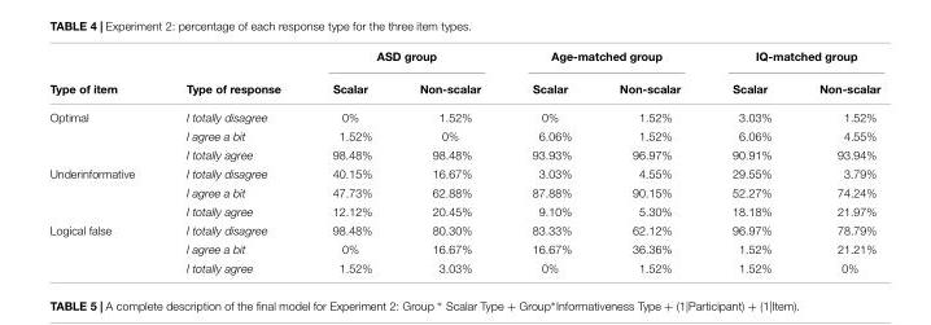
<table><thead><tr><td rowspan="2">Type of item</td><td rowspan="2">Type of response</td><td colspan="2">ASD group</td><td colspan="2">Age-matched group</td><td colspan="2">IQ-matched group</td></tr><tr><td>Scalar</td><td>Non-scalar</td><td>Scalar</td><td>Non-scalar</td><td>Scalar</td><td>Non-scalar</td></tr></thead><tbody><tr><td rowspan="3">Optimal</td><td>I totally disagree</td><td>0%</td><td>1.52%</td><td>0%</td><td>1.52%</td><td>3.03%</td><td>1.52%</td></tr><tr><td>I agree a bit</td><td>1.52%</td><td>0%</td><td>6.06%</td><td>1.52%</td><td>6.06%</td><td>4.55%</td></tr><tr><td>I totally agree</td><td>98.48%</td><td>98.48%</td><td>93.93%</td><td>96.97%</td><td>90.91%</td><td>93.94%</td></tr><tr><td rowspan="3">Underinformative</td><td>I totally disagree</td><td>40.15%</td><td>16.67%</td><td>3.03%</td><td>4.55%</td><td>29.55%</td><td>3.79%</td></tr><tr><td>I agree a bit</td><td>47.73%</td><td>62.88%</td><td>87.88%</td><td>90.15%</td><td>52.27%</td><td>74.24%</td></tr><tr><td>I totally agree</td><td>12.12%</td><td>20.45%</td><td>9.10%</td><td>5.30%</td><td>18.18%</td><td>21.97%</td></tr><tr><td rowspan="3">Logical false</td><td>I totally disagree</td><td>98.48%</td><td>80.30%</td><td>83.33%</td><td>62.12%</td><td>96.97%</td><td>78.79%</td></tr><tr><td>I agree a bit</td><td>0%</td><td>16.67%</td><td>16.67%</td><td>36.36%</td><td>1.52%</td><td>21.21%</td></tr><tr><td>I totally agree</td><td>1.52%</td><td>3.03%</td><td>0%</td><td>1.52%</td><td>1.52%</td><td>0%</td></tr></tbody></table>